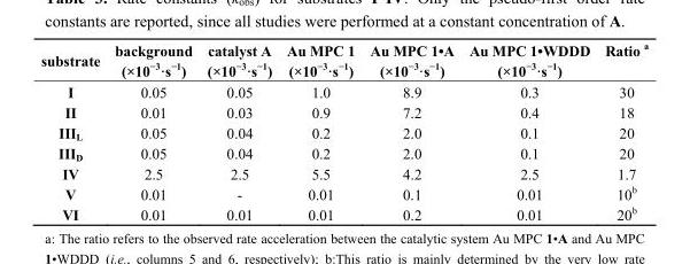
<table><thead><tr><td>substrate</td><td>background (×10<sup>−3</sup>·s<sup>−1</sup>)</td><td>catalyst A (×10<sup>−3</sup>·s<sup>−1</sup>)</td><td>Au MPC 1 (×10<sup>−3</sup>·s<sup>−1</sup>)</td><td>Au MPC 1•A (×10<sup>−3</sup>·s<sup>−1</sup>)</td><td>Au MPC 1•WDDD (×10<sup>−3</sup>·s<sup>−1</sup>)</td><td>Ratio a</td></tr></thead><tbody><tr><td>I</td><td>0.05</td><td>0.05</td><td>1.0</td><td>8.9</td><td>0.3</td><td>30</td></tr><tr><td>II</td><td>0.01</td><td>0.03</td><td>0.9</td><td>7.2</td><td>0.4</td><td>18</td></tr><tr><td>III<sub>L</sub></td><td>0.05</td><td>0.04</td><td>0.2</td><td>2.0</td><td>0.1</td><td>20</td></tr><tr><td>III<sub>D</sub></td><td>0.05</td><td>0.04</td><td>0.2</td><td>2.0</td><td>0.1</td><td>20</td></tr><tr><td>IV</td><td>2.5</td><td>2.5</td><td>5.5</td><td>4.2</td><td>2.5</td><td>1.7</td></tr><tr><td>V</td><td>0.01</td><td>-</td><td>0.01</td><td>0.1</td><td>0.01</td><td>10<sup>b</sup></td></tr><tr><td>VI</td><td>0.01</td><td>0.01</td><td>0.01</td><td>0.2</td><td>0.01</td><td>20<sup>b</sup></td></tr></tbody></table>